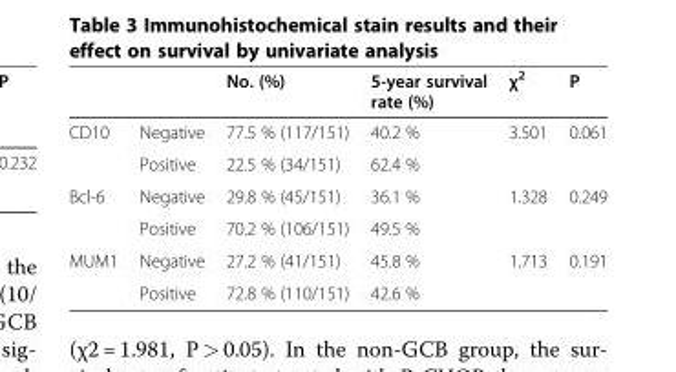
<table><thead><tr><td></td><td></td><td>No. (%)</td><td>5-year survival rate (%)</td><td>χ<sup>2</sup></td><td>P</td></tr></thead><tbody><tr><td rowspan="2">CD10</td><td>Negative</td><td>77.5 % (117/151)</td><td>40.2 %</td><td rowspan="2">3.501</td><td rowspan="2">0.061</td></tr><tr><td>Positive</td><td>22.5 % (34/151)</td><td>62.4 %</td></tr><tr><td rowspan="2">Bcl-6</td><td>Negative</td><td>29.8 % (45/151)</td><td>36.1 %</td><td rowspan="2">1.328</td><td rowspan="2">0.249</td></tr><tr><td>Positive</td><td>70.2 % (106/151)</td><td>49.5 %</td></tr><tr><td rowspan="2">MUM1</td><td>Negative</td><td>27.2 % (41/151)</td><td>45.8 %</td><td>1.713</td><td>0.191</td></tr><tr><td>Positive</td><td>72.8 % (110/151)</td><td>42.6 %</td><td></td><td></td></tr></tbody></table>